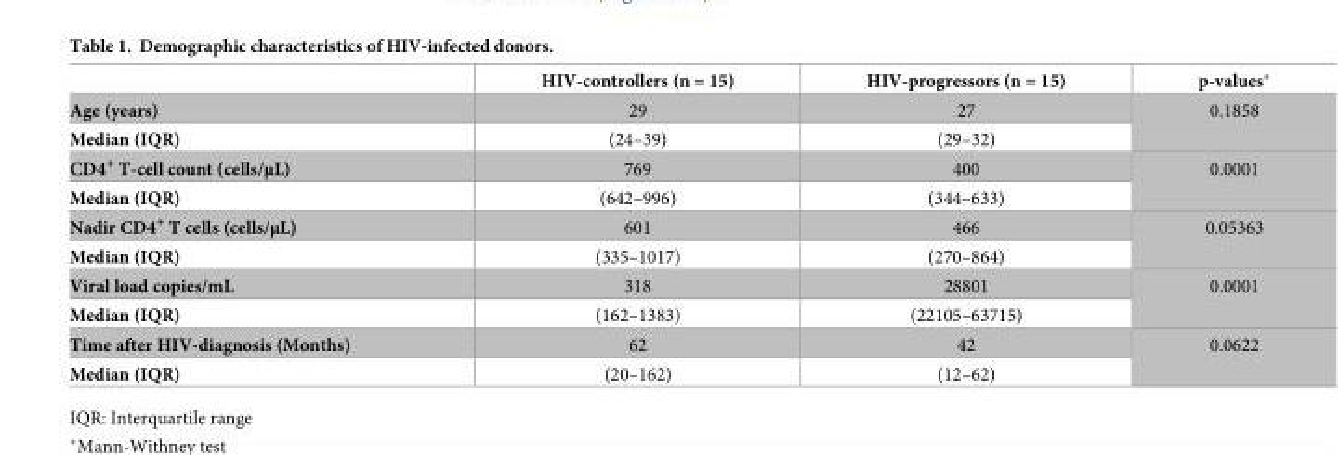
<table><thead><tr><td></td><td>HIV-controllers (n = 15)</td><td>HIV-progressors (n = 15)</td><td>p-values*</td></tr></thead><tbody><tr><td>Age (years)</td><td>29</td><td>27</td><td rowspan="2">0.1858</td></tr><tr><td>Median (IQR)</td><td>(24–39)</td><td>(29–32)</td></tr><tr><td>CD4<sup>+</sup> T-cell count (cells/μL)</td><td>769</td><td>400</td><td rowspan="2">0.0001</td></tr><tr><td>Median (IQR)</td><td>(642–996)</td><td>(344–633)</td></tr><tr><td>Nadir CD4<sup>+</sup> T cells (cells/μL)</td><td>601</td><td>466</td><td rowspan="2">0.05363</td></tr><tr><td>Median (IQR)</td><td>(335–1017)</td><td>(270–864)</td></tr><tr><td>Viral load copies/mL</td><td>318</td><td>28801</td><td rowspan="2">0.0001</td></tr><tr><td>Median (IQR)</td><td>(162–1383)</td><td>(22105–63715)</td></tr><tr><td>Time after HIV-diagnosis (Months)</td><td>62</td><td>42</td><td rowspan="2">0.0622</td></tr><tr><td>Median (IQR)</td><td>(20–162)</td><td>(12–62)</td></tr></tbody></table>